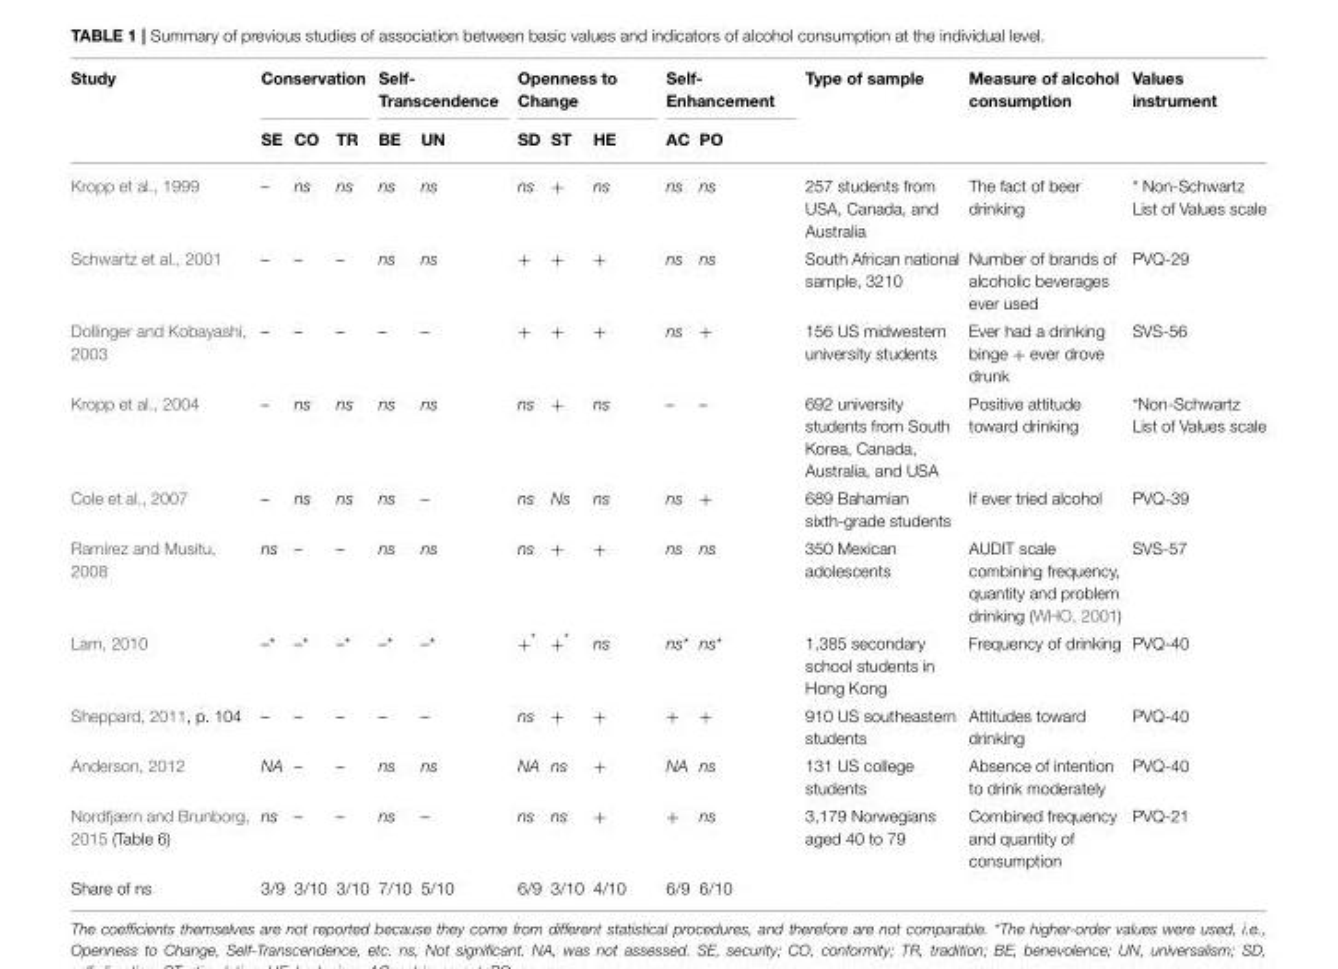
<table><thead><tr><td rowspan="2">Study</td><td colspan="3">Conservation</td><td colspan="2">Self- Transcendence</td><td colspan="3">Openness to Change</td><td colspan="2">Self- Enhancement</td><td rowspan="2">Type of sample</td><td rowspan="2">Measure of alcohol consumption</td><td rowspan="2">Values instrument</td></tr><tr><td>SE</td><td>CO</td><td>TR</td><td>BE</td><td>UN</td><td>SD</td><td>ST</td><td>HE</td><td>AC</td><td>PO</td></tr></thead><tbody><tr><td>Kropp et al., 1999</td><td>–</td><td>ns</td><td>ns</td><td>ns</td><td>ns</td><td>ns</td><td>+</td><td>ns</td><td>ns</td><td>ns</td><td>257 students from USA, Canada, and Australia</td><td>The fact of beer drinking</td><td>* Non-Schwartz List of Values scale</td></tr><tr><td>Schwartz et al., 2001</td><td>–</td><td>–</td><td>–</td><td>ns</td><td>ns</td><td>+</td><td>+</td><td>+</td><td>ns</td><td>ns</td><td>South African national sample, 3210</td><td>Number of brands of alcoholic beverages ever used</td><td>PVQ-29</td></tr><tr><td>Dollinger and Kobayashi, 2003</td><td>–</td><td>–</td><td>–</td><td>–</td><td>–</td><td>+</td><td>+</td><td>+</td><td>ns</td><td>+</td><td>156 US midwestern university students</td><td>Ever had a drinking binge + ever drove drunk</td><td>SVS-56</td></tr><tr><td>Kropp et al., 2004</td><td>–</td><td>ns</td><td>ns</td><td>ns</td><td>ns</td><td>ns</td><td>+</td><td>ns</td><td>–</td><td>–</td><td>692 university students from South Korea, Canada, Australia, and USA</td><td>Positive attitude toward drinking</td><td>*Non-Schwartz List of Values scale</td></tr><tr><td>Cole et al., 2007</td><td>–</td><td>ns</td><td>ns</td><td>ns</td><td>–</td><td>ns</td><td>Ns</td><td>ns</td><td>ns</td><td>+</td><td>689 Bahamian sixth-grade students</td><td>If ever tried alcohol</td><td>PVQ-39</td></tr><tr><td>Ramírez and Musitu, 2008</td><td>ns</td><td>–</td><td>–</td><td>ns</td><td>ns</td><td>ns</td><td>+</td><td>+</td><td>ns</td><td>ns</td><td>350 Mexican adolescents</td><td>AUDIT scale combining frequency, quantity and problem drinking (WHO, 2001)</td><td>SVS-57</td></tr><tr><td>Lam, 2010</td><td>–*</td><td>–*</td><td>–*</td><td>–*</td><td>–*</td><td>+*</td><td>+*</td><td>ns</td><td>ns*</td><td>ns*</td><td>1,385 secondary school students in Hong Kong</td><td>Frequency of drinking</td><td>PVQ-40</td></tr><tr><td>Sheppard, 2011, p. 104</td><td>–</td><td>–</td><td>–</td><td>–</td><td>–</td><td>ns</td><td>+</td><td>+</td><td>+</td><td>+</td><td>910 US southeastern students</td><td>Attitudes toward drinking</td><td>PVQ-40</td></tr><tr><td>Anderson, 2012</td><td>NA</td><td>–</td><td>–</td><td>ns</td><td>ns</td><td>NA</td><td>ns</td><td>+</td><td>NA</td><td>ns</td><td>131 US college students</td><td>Absence of intention to drink moderately</td><td>PVQ-40</td></tr><tr><td>Nordfjærn and Brunborg, 2015 (Table 6)</td><td>ns</td><td>–</td><td>–</td><td>ns</td><td>–</td><td>ns</td><td>ns</td><td>+</td><td>+</td><td>ns</td><td>3,179 Norwegians aged 40 to 79</td><td>Combined frequency and quantity of consumption</td><td>PVQ-21</td></tr><tr><td>Share of ns</td><td>3/9</td><td>3/10</td><td>3/10</td><td>7/10</td><td>5/10</td><td>6/9</td><td>3/10</td><td>4/10</td><td>6/9</td><td>6/10</td><td></td><td></td><td></td></tr></tbody></table>